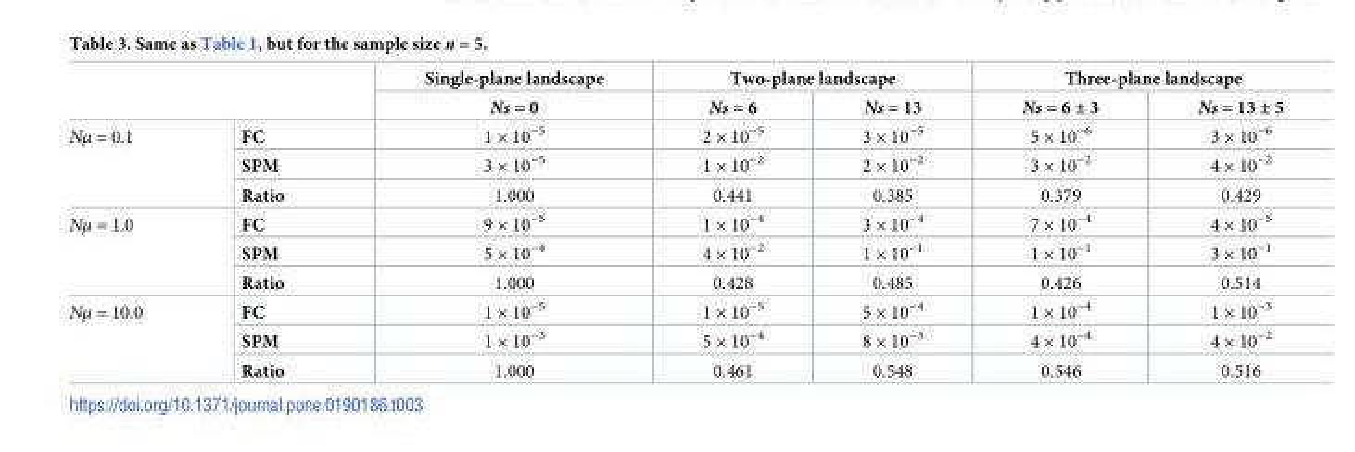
<table><thead><tr><td rowspan="2"></td><td rowspan="2"></td><td rowspan="2">Single-plane landscape Ns = 0</td><td colspan="2">Two-plane landscape</td><td colspan="2">Three-plane landscape</td></tr><tr><td>Ns = 6</td><td>Ns = 13</td><td>Ns = 6 ± 3</td><td>Ns = 13 ± 5</td></tr></thead><tbody><tr><td rowspan="3">Nμ = 0.1</td><td>FC</td><td>1 × 10<sup>−5</sup></td><td>2 × 10<sup>−5</sup></td><td>3 × 10<sup>−5</sup></td><td>5 × 10<sup>−6</sup></td><td>3 × 10<sup>−6</sup></td></tr><tr><td>SPM</td><td>3 × 10<sup>−5</sup></td><td>1 × 10<sup>−2</sup></td><td>2 × 10<sup>−2</sup></td><td>3 × 10<sup>−2</sup></td><td>4 × 10<sup>−2</sup></td></tr><tr><td>Ratio</td><td>1.000</td><td>0.441</td><td>0.385</td><td>0.379</td><td>0.429</td></tr><tr><td rowspan="3">Nμ = 1.0</td><td>FC</td><td>9 × 10<sup>−5</sup></td><td>1 × 10<sup>−4</sup></td><td>3 × 10<sup>−4</sup></td><td>7 × 10<sup>−4</sup></td><td>4 × 10<sup>−5</sup></td></tr><tr><td>SPM</td><td>5 × 10<sup>−4</sup></td><td>4 × 10<sup>−2</sup></td><td>1 × 10<sup>−1</sup></td><td>1 × 10<sup>−1</sup></td><td>3 × 10<sup>−1</sup></td></tr><tr><td>Ratio</td><td>1.000</td><td>0.428</td><td>0.485</td><td>0.426</td><td>0.514</td></tr><tr><td rowspan="3">Nμ = 10.0</td><td>FC</td><td>1 × 10<sup>−5</sup></td><td>1 × 10<sup>−5</sup></td><td>5 × 10<sup>−4</sup></td><td>1 × 10<sup>−4</sup></td><td>1 × 10<sup>−3</sup></td></tr><tr><td>SPM</td><td>1 × 10<sup>−3</sup></td><td>5 × 10<sup>−4</sup></td><td>8 × 10<sup>−3</sup></td><td>4 × 10<sup>−4</sup></td><td>4 × 10<sup>−2</sup></td></tr><tr><td>Ratio</td><td>1.000</td><td>0.461</td><td>0.548</td><td>0.546</td><td>0.516</td></tr></tbody></table>